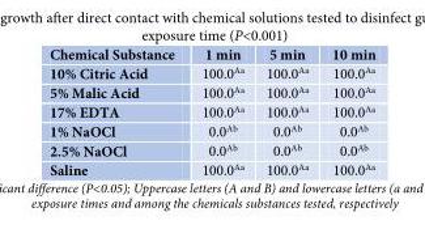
<table><tbody><tr><td>Chemical Substance</td><td>1 min</td><td>5 min</td><td>10 min</td></tr><tr><td>10% Citric Acid</td><td>100.0<sup>Aa</sup></td><td>100.0<sup>Aa</sup></td><td>100.0<sup>Aa</sup></td></tr><tr><td>5% Malic Acid</td><td>100.0<sup>Aa</sup></td><td>100.0<sup>Aa</sup></td><td>100.0<sup>Aa</sup></td></tr><tr><td>17% EDTA</td><td>100.0<sup>Aa</sup></td><td>100.0<sup>Aa</sup></td><td>100.0<sup>Aa</sup></td></tr><tr><td>1% NaOCl</td><td>0.0<sup>Ab</sup></td><td>0.0<sup>Ab</sup></td><td>0.0<sup>Ab</sup></td></tr><tr><td>2.5% NaOCl</td><td>0.0<sup>Ab</sup></td><td>0.0<sup>Ab</sup></td><td>0.0<sup>Ab</sup></td></tr><tr><td>Saline</td><td>100.0<sup>Aa</sup></td><td>100.0<sup>Aa</sup></td><td>100.0<sup>Aa</sup></td></tr></tbody></table>